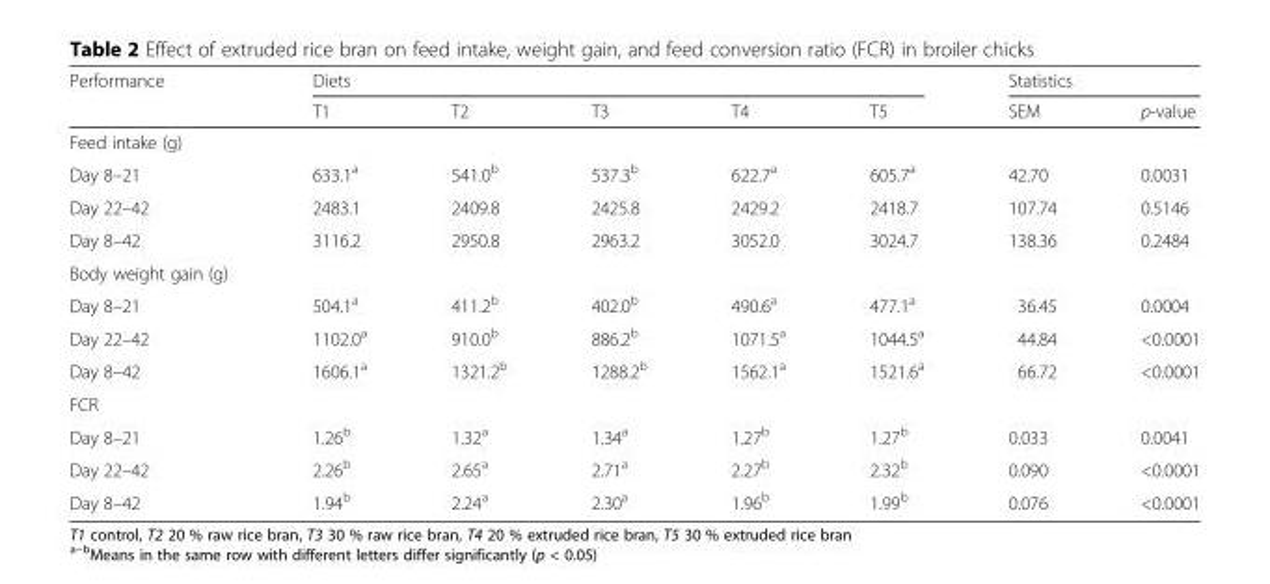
<table><thead><tr><td rowspan="2">Performance</td><td colspan="5">Diets</td><td colspan="2">Statistics</td></tr><tr><td>T1</td><td>T2</td><td>T3</td><td>T4</td><td>T5</td><td>SEM</td><td>p-value</td></tr></thead><tbody><tr><td colspan="8">Feed intake (g)</td></tr><tr><td>Day 8–21</td><td>633.1<sup>a</sup></td><td>541.0<sup>b</sup></td><td>537.3<sup>b</sup></td><td>622.7<sup>a</sup></td><td>605.7<sup>a</sup></td><td>42.70</td><td>0.0031</td></tr><tr><td>Day 22–42</td><td>2483.1</td><td>2409.8</td><td>2425.8</td><td>2429.2</td><td>2418.7</td><td>107.74</td><td>0.5146</td></tr><tr><td>Day 8–42</td><td>3116.2</td><td>2950.8</td><td>2963.2</td><td>3052.0</td><td>3024.7</td><td>138.36</td><td>0.2484</td></tr><tr><td colspan="8">Body weight gain (g)</td></tr><tr><td>Day 8–21</td><td>504.1<sup>a</sup></td><td>411.2<sup>b</sup></td><td>402.0<sup>b</sup></td><td>490.6<sup>a</sup></td><td>477.1<sup>a</sup></td><td>36.45</td><td>0.0004</td></tr><tr><td>Day 22–42</td><td>1102.0<sup>a</sup></td><td>910.0<sup>b</sup></td><td>886.2<sup>b</sup></td><td>1071.5<sup>a</sup></td><td>1044.5<sup>a</sup></td><td>44.84</td><td>&lt;0.0001</td></tr><tr><td>Day 8–42</td><td>1606.1<sup>a</sup></td><td>1321.2<sup>b</sup></td><td>1288.2<sup>b</sup></td><td>1562.1<sup>a</sup></td><td>1521.6<sup>a</sup></td><td>66.72</td><td>&lt;0.0001</td></tr><tr><td colspan="8">FCR</td></tr><tr><td>Day 8–21</td><td>1.26<sup>b</sup></td><td>1.32<sup>a</sup></td><td>1.34<sup>a</sup></td><td>1.27<sup>b</sup></td><td>1.27<sup>b</sup></td><td>0.033</td><td>0.0041</td></tr><tr><td>Day 22–42</td><td>2.26<sup>b</sup></td><td>2.65<sup>a</sup></td><td>2.71<sup>a</sup></td><td>2.27<sup>b</sup></td><td>2.32<sup>b</sup></td><td>0.090</td><td>&lt;0.0001</td></tr><tr><td>Day 8–42</td><td>1.94<sup>b</sup></td><td>2.24<sup>a</sup></td><td>2.30<sup>a</sup></td><td>1.96<sup>b</sup></td><td>1.99<sup>b</sup></td><td>0.076</td><td>&lt;0.0001</td></tr></tbody></table>